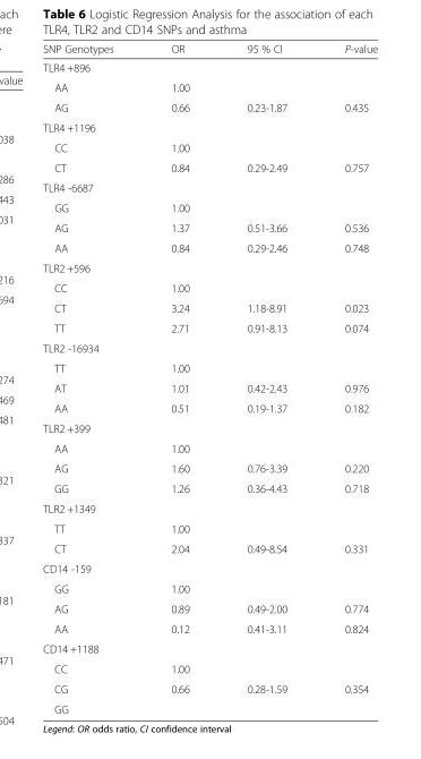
<table><thead><tr><td>SNP Genotypes</td><td>OR</td><td>95 % CI</td><td>P-value</td></tr></thead><tbody><tr><td colspan="4">TLR4 +896</td></tr><tr><td>AA</td><td>1.00</td><td></td><td></td></tr><tr><td>AG</td><td>0.66</td><td>0.23-1.87</td><td>0.435</td></tr><tr><td colspan="4">TLR4 +1196</td></tr><tr><td>CC</td><td>1.00</td><td></td><td></td></tr><tr><td>CT</td><td>0.84</td><td>0.29-2.49</td><td>0.757</td></tr><tr><td colspan="4">TLR4 -6687</td></tr><tr><td>GG</td><td>1.00</td><td></td><td></td></tr><tr><td>AG</td><td>1.37</td><td>0.51-3.66</td><td>0.536</td></tr><tr><td>AA</td><td>0.84</td><td>0.29-2.46</td><td>0.748</td></tr><tr><td colspan="4">TLR2 +596</td></tr><tr><td>CC</td><td>1.00</td><td></td><td></td></tr><tr><td>CT</td><td>3.24</td><td>1.18-8.91</td><td>0.023</td></tr><tr><td>TT</td><td>2.71</td><td>0.91-8.13</td><td>0.074</td></tr><tr><td colspan="4">TLR2 -16934</td></tr><tr><td>TT</td><td>1.00</td><td></td><td></td></tr><tr><td>AT</td><td>1.01</td><td>0.42-2.43</td><td>0.976</td></tr><tr><td>AA</td><td>0.51</td><td>0.19-1.37</td><td>0.182</td></tr><tr><td colspan="4">TLR2 +399</td></tr><tr><td>AA</td><td>1.00</td><td></td><td></td></tr><tr><td>AG</td><td>1.60</td><td>0.76-3.39</td><td>0.220</td></tr><tr><td>GG</td><td>1.26</td><td>0.36-4.43</td><td>0.718</td></tr><tr><td colspan="4">TLR2 +1349</td></tr><tr><td>TT</td><td>1.00</td><td></td><td></td></tr><tr><td>CT</td><td>2.04</td><td>0.49-8.54</td><td>0.331</td></tr><tr><td colspan="4">CD14 -159</td></tr><tr><td>GG</td><td>1.00</td><td></td><td></td></tr><tr><td>AG</td><td>0.89</td><td>0.49-2.00</td><td>0.774</td></tr><tr><td>AA</td><td>0.12</td><td>0.41-3.11</td><td>0.824</td></tr><tr><td colspan="4">CD14 +1188</td></tr><tr><td>CC</td><td>1.00</td><td></td><td></td></tr><tr><td>CG</td><td>0.66</td><td>0.28-1.59</td><td>0.354</td></tr><tr><td>GG</td><td></td><td></td><td></td></tr></tbody></table>